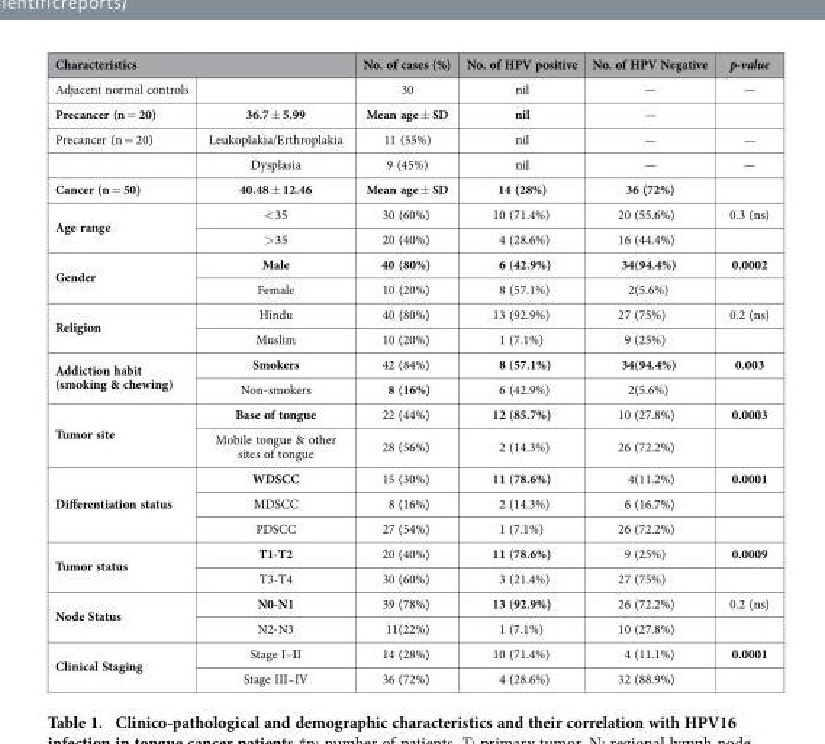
<table><thead><tr><td colspan="2">Characteristics</td><td rowspan="2">No. of cases (%) 30</td><td rowspan="2">No. of HPV positive nil</td><td rowspan="2">No. of HPV Negative —</td><td rowspan="2">p-value —</td></tr><tr><td>Adjacent normal controls</td><td></td></tr></thead><tbody><tr><td>Precancer (n = 20)</td><td>36.7 ± 5.99</td><td>Mean age ± SD</td><td>nil</td><td>—</td><td></td></tr><tr><td rowspan="2">Precancer (n = 20)</td><td>Leukoplakia/Erthroplakia</td><td>11 (55%)</td><td>nil</td><td>—</td><td>—</td></tr><tr><td>Dysplasia</td><td>9 (45%)</td><td>nil</td><td>—</td><td>—</td></tr><tr><td>Cancer (n = 50)</td><td>40.48 ± 12.46</td><td>Mean age ± SD</td><td>14 (28%)</td><td>36 (72%)</td><td></td></tr><tr><td rowspan="2">Age range</td><td>&lt; 35</td><td>30 (60%)</td><td>10 (71.4%)</td><td>20 (55.6%)</td><td>0.3 (ns)</td></tr><tr><td>&gt; 35</td><td>20 (40%)</td><td>4 (28.6%)</td><td>16 (44.4%)</td><td></td></tr><tr><td rowspan="2">Gender</td><td>Male</td><td>40 (80%)</td><td>6 (42.9%)</td><td>34(94.4%)</td><td>0.0002</td></tr><tr><td>Female</td><td>10 (20%)</td><td>8 (57.1%)</td><td>2(5.6%)</td><td></td></tr><tr><td rowspan="2">Religion</td><td>Hindu</td><td>40 (80%)</td><td>13 (92.9%)</td><td>27 (75%)</td><td>0.2 (ns)</td></tr><tr><td>Muslim</td><td>10 (20%)</td><td>1 (7.1%)</td><td>9 (25%)</td><td></td></tr><tr><td rowspan="2">Addiction habit (smoking &amp; chewing)</td><td>Smokers</td><td>42 (84%)</td><td>8 (57.1%)</td><td>34(94.4%)</td><td>0.003</td></tr><tr><td>Non-smokers</td><td>8 (16%)</td><td>6 (42.9%)</td><td>2(5.6%)</td><td></td></tr><tr><td rowspan="2">Tumor site</td><td>Base of tongue</td><td>22 (44%)</td><td>12 (85.7%)</td><td>10 (27.8%)</td><td>0.0003</td></tr><tr><td>Mobile tongue &amp; other sites of tongue</td><td>28 (56%)</td><td>2 (14.3%)</td><td>26 (72.2%)</td><td></td></tr><tr><td rowspan="3">Differentiation status</td><td>WDSCC</td><td>15 (30%)</td><td>11 (78.6%)</td><td>4(11.2%)</td><td>0.0001</td></tr><tr><td>MDSCC</td><td>8 (16%)</td><td>2 (14.3%)</td><td>6 (16.7%)</td><td></td></tr><tr><td>PDSCC</td><td>27 (54%)</td><td>1 (7.1%)</td><td>26 (72.2%)</td><td></td></tr><tr><td rowspan="2">Tumor status</td><td>T1-T2</td><td>20 (40%)</td><td>11 (78.6%)</td><td>9 (25%)</td><td>0.0009</td></tr><tr><td>T3-T4</td><td>30 (60%)</td><td>3 (21.4%)</td><td>27 (75%)</td><td></td></tr><tr><td rowspan="2">Node Status</td><td>N0-N1</td><td>39 (78%)</td><td>13 (92.9%)</td><td>26 (72.2%)</td><td>0.2 (ns)</td></tr><tr><td>N2-N3</td><td>11(22%)</td><td>1 (7.1%)</td><td>10 (27.8%)</td><td></td></tr><tr><td rowspan="2">Clinical Staging</td><td>Stage I–II</td><td>14 (28%)</td><td>10 (71.4%)</td><td>4 (11.1%)</td><td>0.0001</td></tr><tr><td>Stage III–IV</td><td>36 (72%)</td><td>4 (28.6%)</td><td>32 (88.9%)</td><td></td></tr></tbody></table>